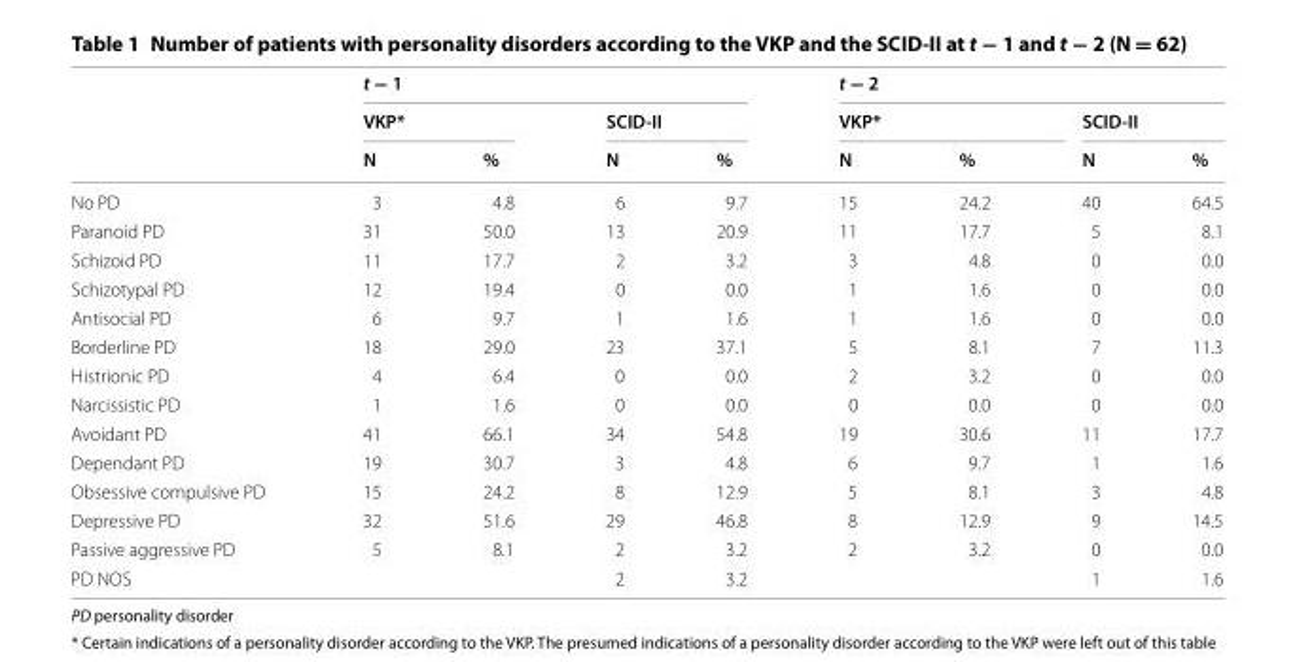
<table><thead><tr><td rowspan="3"></td><td colspan="4">t − 1</td><td colspan="4">t − 2</td></tr><tr><td colspan="2">VKP*</td><td colspan="2">SCID‑II</td><td colspan="2">VKP*</td><td colspan="2">SCID‑II</td></tr><tr><td>N</td><td>%</td><td>N</td><td>%</td><td>N</td><td>%</td><td>N</td><td>%</td></tr></thead><tbody><tr><td>No PD</td><td>3</td><td>4.8</td><td>6</td><td>9.7</td><td>15</td><td>24.2</td><td>40</td><td>64.5</td></tr><tr><td>Paranoid PD</td><td>31</td><td>50.0</td><td>13</td><td>20.9</td><td>11</td><td>17.7</td><td>5</td><td>8.1</td></tr><tr><td>Schizoid PD</td><td>11</td><td>17.7</td><td>2</td><td>3.2</td><td>3</td><td>4.8</td><td>0</td><td>0.0</td></tr><tr><td>Schizotypal PD</td><td>12</td><td>19.4</td><td>0</td><td>0.0</td><td>1</td><td>1.6</td><td>0</td><td>0.0</td></tr><tr><td>Antisocial PD</td><td>6</td><td>9.7</td><td>1</td><td>1.6</td><td>1</td><td>1.6</td><td>0</td><td>0.0</td></tr><tr><td>Borderline PD</td><td>18</td><td>29.0</td><td>23</td><td>37.1</td><td>5</td><td>8.1</td><td>7</td><td>11.3</td></tr><tr><td>Histrionic PD</td><td>4</td><td>6.4</td><td>0</td><td>0.0</td><td>2</td><td>3.2</td><td>0</td><td>0.0</td></tr><tr><td>Narcissistic PD</td><td>1</td><td>1.6</td><td>0</td><td>0.0</td><td>0</td><td>0.0</td><td>0</td><td>0.0</td></tr><tr><td>Avoidant PD</td><td>41</td><td>66.1</td><td>34</td><td>54.8</td><td>19</td><td>30.6</td><td>11</td><td>17.7</td></tr><tr><td>Dependant PD</td><td>19</td><td>30.7</td><td>3</td><td>4.8</td><td>6</td><td>9.7</td><td>1</td><td>1.6</td></tr><tr><td>Obsessive compulsive PD</td><td>15</td><td>24.2</td><td>8</td><td>12.9</td><td>5</td><td>8.1</td><td>3</td><td>4.8</td></tr><tr><td>Depressive PD</td><td>32</td><td>51.6</td><td>29</td><td>46.8</td><td>8</td><td>12.9</td><td>9</td><td>14.5</td></tr><tr><td>Passive aggressive PD</td><td>5</td><td>8.1</td><td>2</td><td>3.2</td><td>2</td><td>3.2</td><td>0</td><td>0.0</td></tr><tr><td>PD NOS</td><td></td><td></td><td>2</td><td>3.2</td><td></td><td></td><td>1</td><td>1.6</td></tr></tbody></table>